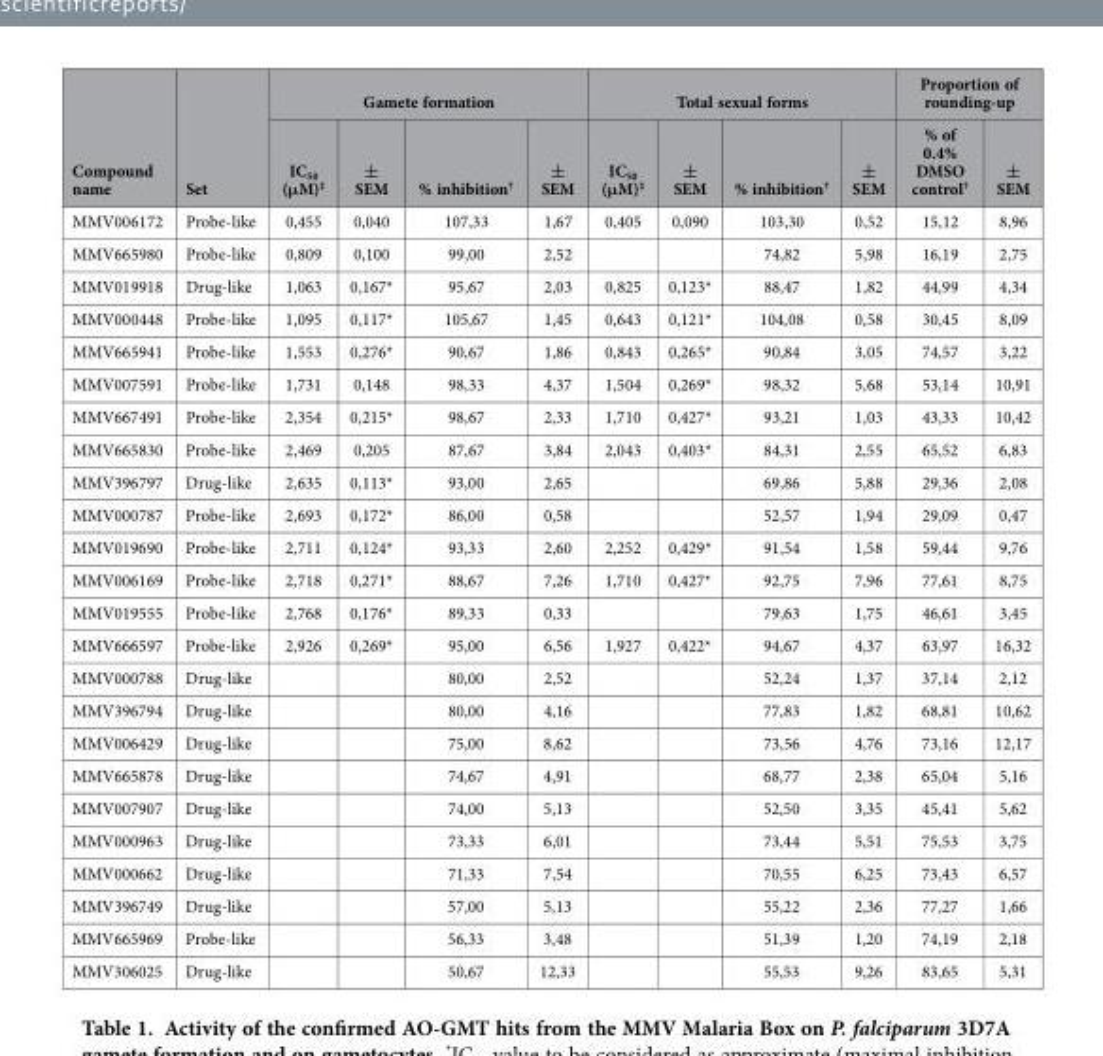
<table><thead><tr><td rowspan="2">Compound name</td><td rowspan="2">Set</td><td colspan="4">Gamete formation</td><td colspan="4">Total sexual forms</td><td colspan="2">Proportion of rounding-up</td></tr><tr><td>IC<sub>50</sub> (μM)‡</td><td>± SEM</td><td>% inhibition†</td><td>± SEM</td><td>IC<sub>50</sub> (μM)‡</td><td>± SEM</td><td>% inhibition†</td><td>± SEM</td><td>% of 0.4% DMSO control†</td><td>± SEM</td></tr></thead><tbody><tr><td>MMV006172</td><td>Probe-like</td><td>0,455</td><td>0,040</td><td>107,33</td><td>1,67</td><td>0,405</td><td>0,090</td><td>103,30</td><td>0,52</td><td>15,12</td><td>8,96</td></tr><tr><td>MMV665980</td><td>Probe-like</td><td>0,809</td><td>0,100</td><td>99,00</td><td>2,52</td><td></td><td></td><td>74,82</td><td>5,98</td><td>16,19</td><td>2,75</td></tr><tr><td>MMV019918</td><td>Drug-like</td><td>1,063</td><td>0,167*</td><td>95,67</td><td>2,03</td><td>0,825</td><td>0,123*</td><td>88,47</td><td>1,82</td><td>44,99</td><td>4,34</td></tr><tr><td>MMV000448</td><td>Probe-like</td><td>1,095</td><td>0,117*</td><td>105,67</td><td>1,45</td><td>0,643</td><td>0,121*</td><td>104,08</td><td>0,58</td><td>30,45</td><td>8,09</td></tr><tr><td>MMV665941</td><td>Probe-like</td><td>1,553</td><td>0,276*</td><td>90,67</td><td>1,86</td><td>0,843</td><td>0,265*</td><td>90,84</td><td>3,05</td><td>74,57</td><td>3,22</td></tr><tr><td>MMV007591</td><td>Probe-like</td><td>1,731</td><td>0,148</td><td>98,33</td><td>4,37</td><td>1,504</td><td>0,269*</td><td>98,32</td><td>5,68</td><td>53,14</td><td>10,91</td></tr><tr><td>MMV667491</td><td>Probe-like</td><td>2,354</td><td>0,215*</td><td>98,67</td><td>2,33</td><td>1,710</td><td>0,427*</td><td>93,21</td><td>1,03</td><td>43,33</td><td>10,42</td></tr><tr><td>MMV665830</td><td>Probe-like</td><td>2,469</td><td>0,205</td><td>87,67</td><td>3,84</td><td>2,043</td><td>0,403*</td><td>84,31</td><td>2,55</td><td>65,52</td><td>6,83</td></tr><tr><td>MMV396797</td><td>Drug-like</td><td>2,635</td><td>0,113*</td><td>93,00</td><td>2,65</td><td></td><td></td><td>69,86</td><td>5,88</td><td>29,36</td><td>2,08</td></tr><tr><td>MMV000787</td><td>Probe-like</td><td>2,693</td><td>0,172*</td><td>86,00</td><td>0,58</td><td></td><td></td><td>52,57</td><td>1,94</td><td>29,09</td><td>0,47</td></tr><tr><td>MMV019690</td><td>Probe-like</td><td>2,711</td><td>0,124*</td><td>93,33</td><td>2,60</td><td>2,252</td><td>0,429*</td><td>91,54</td><td>1,58</td><td>59,44</td><td>9,76</td></tr><tr><td>MMV006169</td><td>Probe-like</td><td>2,718</td><td>0,271*</td><td>88,67</td><td>7,26</td><td>1,710</td><td>0,427*</td><td>92,75</td><td>7,96</td><td>77,61</td><td>8,75</td></tr><tr><td>MMV019555</td><td>Probe-like</td><td>2,768</td><td>0,176*</td><td>89,33</td><td>0,33</td><td></td><td></td><td>79,63</td><td>1,75</td><td>46,61</td><td>3,45</td></tr><tr><td>MMV666597</td><td>Probe-like</td><td>2,926</td><td>0,269*</td><td>95,00</td><td>6,56</td><td>1,927</td><td>0,422*</td><td>94,67</td><td>4,37</td><td>63,97</td><td>16,32</td></tr><tr><td>MMV000788</td><td>Drug-like</td><td></td><td></td><td>80,00</td><td>2,52</td><td></td><td></td><td>52,24</td><td>1,37</td><td>37,14</td><td>2,12</td></tr><tr><td>MMV396794</td><td>Drug-like</td><td></td><td></td><td>80,00</td><td>4,16</td><td></td><td></td><td>77,83</td><td>1,82</td><td>68,81</td><td>10,62</td></tr><tr><td>MMV006429</td><td>Drug-like</td><td></td><td></td><td>75,00</td><td>8,62</td><td></td><td></td><td>73,56</td><td>4,76</td><td>73,16</td><td>12,17</td></tr><tr><td>MMV665878</td><td>Drug-like</td><td></td><td></td><td>74,67</td><td>4,91</td><td></td><td></td><td>68,77</td><td>2,38</td><td>65,04</td><td>5,16</td></tr><tr><td>MMV007907</td><td>Drug-like</td><td></td><td></td><td>74,00</td><td>5,13</td><td></td><td></td><td>52,50</td><td>3,35</td><td>45,41</td><td>5,62</td></tr><tr><td>MMV000963</td><td>Drug-like</td><td></td><td></td><td>73,33</td><td>6,01</td><td></td><td></td><td>73,44</td><td>5,51</td><td>75,53</td><td>3,75</td></tr><tr><td>MMV000662</td><td>Drug-like</td><td></td><td></td><td>71,33</td><td>7,54</td><td></td><td></td><td>70,55</td><td>6,25</td><td>73,43</td><td>6,57</td></tr><tr><td>MMV396749</td><td>Drug-like</td><td></td><td></td><td>57,00</td><td>5,13</td><td></td><td></td><td>55,22</td><td>2,36</td><td>77,27</td><td>1,66</td></tr><tr><td>MMV665969</td><td>Probe-like</td><td></td><td></td><td>56,33</td><td>3,48</td><td></td><td></td><td>51,39</td><td>1,20</td><td>74,19</td><td>2,18</td></tr><tr><td>MMV306025</td><td>Drug-like</td><td></td><td></td><td>50,67</td><td>12,33</td><td></td><td></td><td>55,53</td><td>9,26</td><td>83,65</td><td>5,31</td></tr></tbody></table>